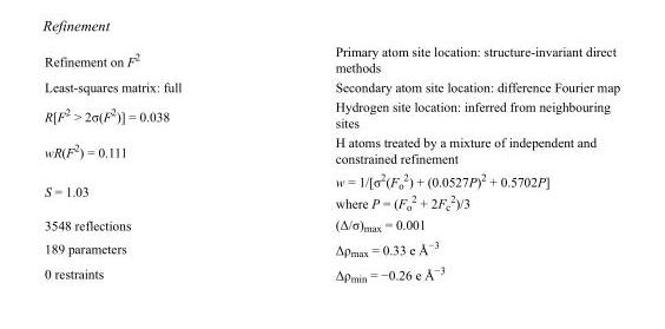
<table><tbody><tr><td>Refinement on F<sup>2</sup></td><td>Primary atom site location: structure-invariant direct methods</td></tr><tr><td>Least-squares matrix: full</td><td>Secondary atom site location: difference Fourier map</td></tr><tr><td>R[F<sup>2</sup> &gt; 2σ(F<sup>2</sup>)] = 0.038</td><td>Hydrogen site location: inferred from neighbouring sites</td></tr><tr><td>wR(F<sup>2</sup>) = 0.111</td><td>H atoms treated by a mixture of independent and constrained refinement</td></tr><tr><td>S = 1.03</td><td>w = 1/[σ<sup>2</sup>(F<sub>o</sub> <sup>2</sup>) + (0.0527P)<sup>2</sup> + 0.5702P] where P = (F<sub>o</sub> <sup>2</sup> + 2F<sub>c</sub> <sup>2</sup>)/3</td></tr><tr><td>3548 reflections</td><td>(Δ/σ)<sub>max</sub> = 0.001</td></tr><tr><td>189 parameters</td><td>Δρ<sub>max</sub> = 0.33 e Å<sup>−3</sup></td></tr><tr><td>0 restraints</td><td>Δρ<sub>min</sub> = −0.26 e Å<sup>−3</sup></td></tr></tbody></table>